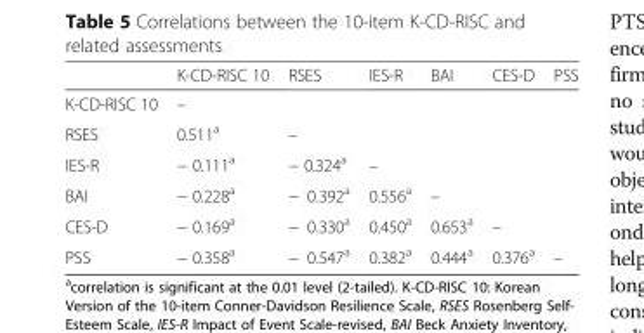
<table><thead><tr><td></td><td>K-CD-RISC 10</td><td>RSES</td><td>IES-R</td><td>BAI</td><td>CES-D</td><td>PSS</td></tr></thead><tbody><tr><td>K-CD-RISC 10</td><td>–</td><td></td><td></td><td></td><td></td><td></td></tr><tr><td>RSES</td><td>0.511<sup>a</sup></td><td>–</td><td></td><td></td><td></td><td></td></tr><tr><td>IES-R</td><td>− 0.111<sup>a</sup></td><td>− 0.324<sup>a</sup></td><td>–</td><td></td><td></td><td></td></tr><tr><td>BAI</td><td>− 0.228<sup>a</sup></td><td>− 0.392<sup>a</sup></td><td>0.556<sup>a</sup></td><td>–</td><td></td><td></td></tr><tr><td>CES-D</td><td>− 0.169<sup>a</sup></td><td>− 0.330<sup>a</sup></td><td>0.450<sup>a</sup></td><td>0.653<sup>a</sup></td><td>–</td><td></td></tr><tr><td>PSS</td><td>− 0.358<sup>a</sup></td><td>− 0.547<sup>a</sup></td><td>0.382<sup>a</sup></td><td>0.444<sup>a</sup></td><td>0.376<sup>a</sup></td><td>–</td></tr></tbody></table>